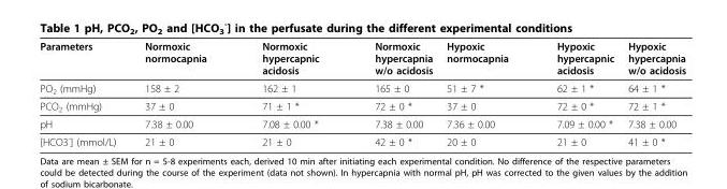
<table><thead><tr><td>Parameters</td><td>Normoxic normocapnia</td><td>Normoxic hypercapnic acidosis</td><td>Normoxic hypercapnia w/o acidosis</td><td>Hypoxic normocapnia</td><td>Hypoxic hypercapnic acidosis</td><td>Hypoxic hypercapnia w/o acidosis</td></tr></thead><tbody><tr><td>PO<sub>2</sub> (mmHg)</td><td>158 ± 2</td><td>162 ± 1</td><td>165 ± 0</td><td>51 ± 7 *</td><td>62 ± 1 *</td><td>64 ± 1 *</td></tr><tr><td>PCO<sub>2</sub> (mmHg)</td><td>37 ± 0</td><td>71 ± 1 *</td><td>72 ± 0 *</td><td>37 ± 0</td><td>72 ± 0 *</td><td>72 ± 1 *</td></tr><tr><td>pH</td><td>7.38 ± 0.00</td><td>7.08 ± 0.00 *</td><td>7.38 ± 0.00</td><td>7.36 ± 0.00</td><td>7.09 ± 0.00 *</td><td>7.38 ± 0.00</td></tr><tr><td>[HCO3<sup>-</sup>] (mmol/L)</td><td>21 ± 0</td><td>21 ± 0</td><td>42 ± 0 *</td><td>20 ± 0</td><td>21 ± 0</td><td>41 ± 0 *</td></tr></tbody></table>